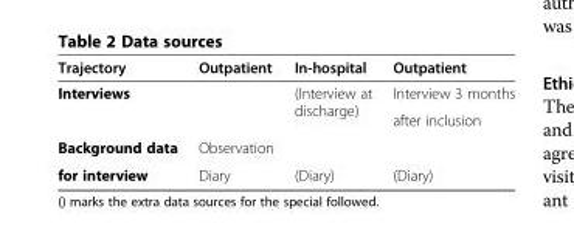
<table><thead><tr><td>Trajectory</td><td>Outpatient</td><td>In-hospital</td><td>Outpatient</td></tr></thead><tbody><tr><td rowspan="2">Interviews</td><td rowspan="2"></td><td rowspan="2">(Interview at discharge)</td><td>Interview 3 months</td></tr><tr><td>after inclusion</td></tr><tr><td>Background data</td><td>Observation</td><td></td><td></td></tr><tr><td>for interview</td><td>Diary</td><td>(Diary)</td><td>(Diary)</td></tr></tbody></table>